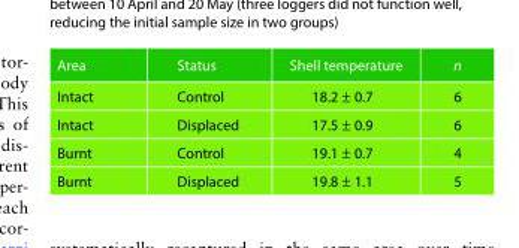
<table><thead><tr><td>Area</td><td>Status</td><td>Shell temperature</td><td>n</td></tr></thead><tbody><tr><td>Intact</td><td>Control</td><td>18.2 ± 0.7</td><td>6</td></tr><tr><td>Intact</td><td>Displaced</td><td>17.5 ± 0.9</td><td>6</td></tr><tr><td>Burnt</td><td>Control</td><td>19.1 ± 0.7</td><td>4</td></tr><tr><td>Burnt</td><td>Displaced</td><td>19.8 ± 1.1</td><td>5</td></tr></tbody></table>